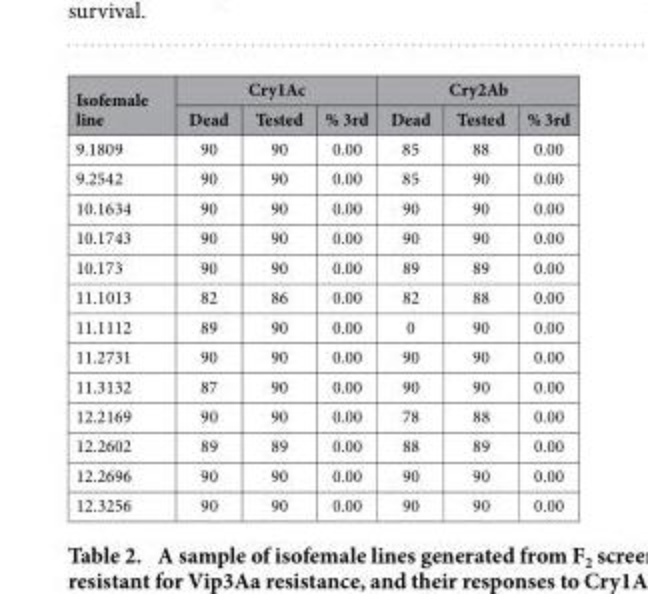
<table><thead><tr><td rowspan="2">Isofemale line</td><td colspan="3">Cry1Ac</td><td colspan="3">Cry2Ab</td></tr><tr><td>Dead</td><td>Tested</td><td>% 3rd</td><td>Dead</td><td>Tested</td><td>% 3rd</td></tr></thead><tbody><tr><td>9.1809</td><td>90</td><td>90</td><td>0.00</td><td>85</td><td>88</td><td>0.00</td></tr><tr><td>9.2542</td><td>90</td><td>90</td><td>0.00</td><td>85</td><td>90</td><td>0.00</td></tr><tr><td>10.1634</td><td>90</td><td>90</td><td>0.00</td><td>90</td><td>90</td><td>0.00</td></tr><tr><td>10.1743</td><td>90</td><td>90</td><td>0.00</td><td>90</td><td>90</td><td>0.00</td></tr><tr><td>10.173</td><td>90</td><td>90</td><td>0.00</td><td>89</td><td>89</td><td>0.00</td></tr><tr><td>11.1013</td><td>82</td><td>86</td><td>0.00</td><td>82</td><td>88</td><td>0.00</td></tr><tr><td>11.1112</td><td>89</td><td>90</td><td>0.00</td><td>0</td><td>90</td><td>0.00</td></tr><tr><td>11.2731</td><td>90</td><td>90</td><td>0.00</td><td>90</td><td>90</td><td>0.00</td></tr><tr><td>11.3132</td><td>87</td><td>90</td><td>0.00</td><td>90</td><td>90</td><td>0.00</td></tr><tr><td>12.2169</td><td>90</td><td>90</td><td>0.00</td><td>78</td><td>88</td><td>0.00</td></tr><tr><td>12.2602</td><td>89</td><td>89</td><td>0.00</td><td>88</td><td>89</td><td>0.00</td></tr><tr><td>12.2696</td><td>90</td><td>90</td><td>0.00</td><td>90</td><td>90</td><td>0.00</td></tr><tr><td>12.3256</td><td>90</td><td>90</td><td>0.00</td><td>90</td><td>90</td><td>0.00</td></tr></tbody></table>